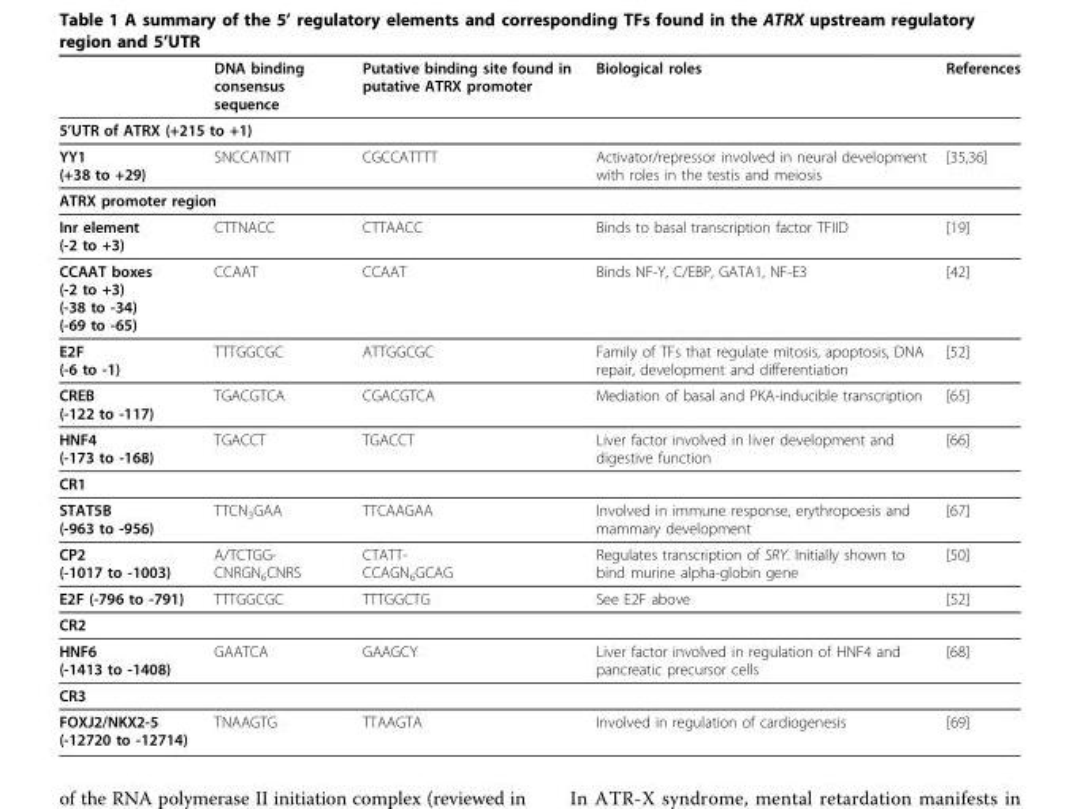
<table><thead><tr><td></td><td>DNA binding consensus sequence</td><td>Putative binding site found in putative ATRX promoter</td><td>Biological roles</td><td>References</td></tr></thead><tbody><tr><td colspan="5">5’UTR of ATRX (+215 to +1)</td></tr><tr><td>YY1 (+38 to +29)</td><td>SNCCATNTT</td><td>CGCCATTTT</td><td>Activator/repressor involved in neural development with roles in the testis and meiosis</td><td>[35,36]</td></tr><tr><td colspan="5">ATRX promoter region</td></tr><tr><td>Inr element (-2 to +3)</td><td>CTTNACC</td><td>CTTAACC</td><td>Binds to basal transcription factor TFIID</td><td>[19]</td></tr><tr><td>CCAAT boxes (-2 to +3) (-38 to -34) (-69 to -65)</td><td>CCAAT</td><td>CCAAT</td><td>Binds NF-Y, C/EBP, GATA1, NF-E3</td><td>[42]</td></tr><tr><td>E2F (-6 to -1)</td><td>TTTGGCGC</td><td>ATTGGCGC</td><td>Family of TFs that regulate mitosis, apoptosis, DNA repair, development and differentiation</td><td>[52]</td></tr><tr><td>CREB (-122 to -117)</td><td>TGACGTCA</td><td>CGACGTCA</td><td>Mediation of basal and PKA-inducible transcription</td><td>[65]</td></tr><tr><td>HNF4 (-173 to -168)</td><td>TGACCT</td><td>TGACCT</td><td>Liver factor involved in liver development and digestive function</td><td>[66]</td></tr><tr><td colspan="5">CR1</td></tr><tr><td>STAT5B (-963 to -956)</td><td>TTCN<sub>3</sub>GAA</td><td>TTCAAGAA</td><td>Involved in immune response, erythropoesis and mammary development</td><td>[67]</td></tr><tr><td>CP2 (-1017 to -1003)</td><td>A/TCTGG- CNRGN<sub>6</sub>CNRS</td><td>CTATT- CCAGN<sub>6</sub>GCAG</td><td>Regulates transcription of SRY. Initially shown to bind murine alpha-globin gene</td><td>[50]</td></tr><tr><td>E2F (-796 to -791)</td><td>TTTGGCGC</td><td>TTTGGCTG</td><td>See E2F above</td><td>[52]</td></tr><tr><td colspan="5">CR2</td></tr><tr><td>HNF6 (-1413 to -1408)</td><td>GAATCA</td><td>GAAGCY</td><td>Liver factor involved in regulation of HNF4 and pancreatic precursor cells</td><td>[68]</td></tr><tr><td colspan="5">CR3</td></tr><tr><td>FOXJ2/NKX2-5 (-12720 to -12714)</td><td>TNAAGTG</td><td>TTAAGTA</td><td>Involved in regulation of cardiogenesis</td><td>[69]</td></tr></tbody></table>